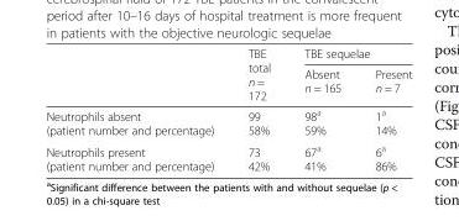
<table><thead><tr><td rowspan="2"></td><td rowspan="2">TBE total n = 172</td><td colspan="2">TBE sequelae</td></tr><tr><td>Absent n = 165</td><td>Present n = 7</td></tr></thead><tbody><tr><td>Neutrophils absent (patient number and percentage)</td><td>99 58%</td><td>98<sup>a</sup> 59%</td><td>1<sup>a</sup> 14%</td></tr><tr><td>Neutrophils present (patient number and percentage)</td><td>73 42%</td><td>67<sup>a</sup> 41%</td><td>6<sup>a</sup> 86%</td></tr></tbody></table>